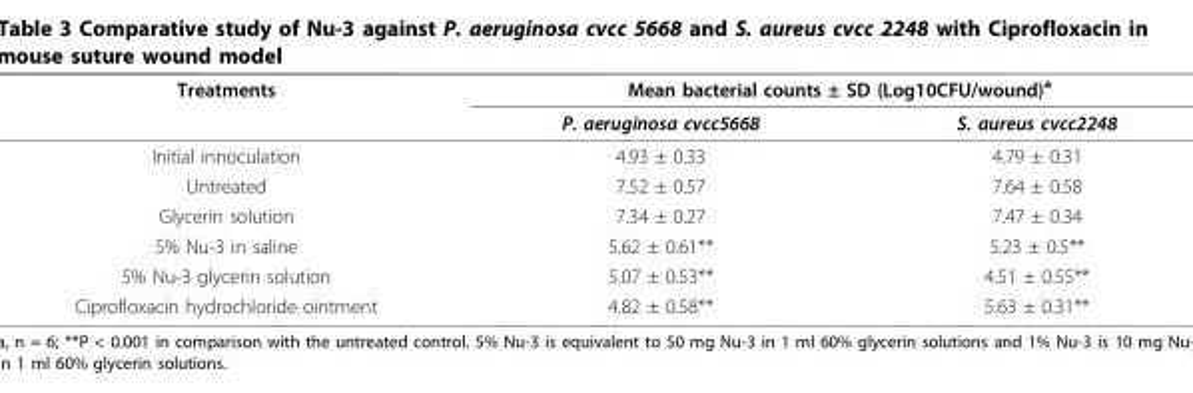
<table><thead><tr><td rowspan="2">Treatments</td><td colspan="2">Mean bacterial counts ± SD (Log10CFU/wound)<sup>a</sup></td></tr><tr><td>P. aeruginosa cvcc5668</td><td>S. aureus cvcc2248</td></tr></thead><tbody><tr><td>Initial innoculation</td><td>4.93 ± 0.33</td><td>4.79 ± 0.31</td></tr><tr><td>Untreated</td><td>7.52 ± 0.57</td><td>7.64 ± 0.58</td></tr><tr><td>Glycerin solution</td><td>7.34 ± 0.27</td><td>7.47 ± 0.34</td></tr><tr><td>5% Nu-3 in saline</td><td>5.62 ± 0.61**</td><td>5.23 ± 0.5**</td></tr><tr><td>5% Nu-3 glycerin solution</td><td>5.07 ± 0.53**</td><td>4.51 ± 0.55**</td></tr><tr><td>Ciprofloxacin hydrochloride ointment</td><td>4.82 ± 0.58**</td><td>5.63 ± 0.31**</td></tr></tbody></table>